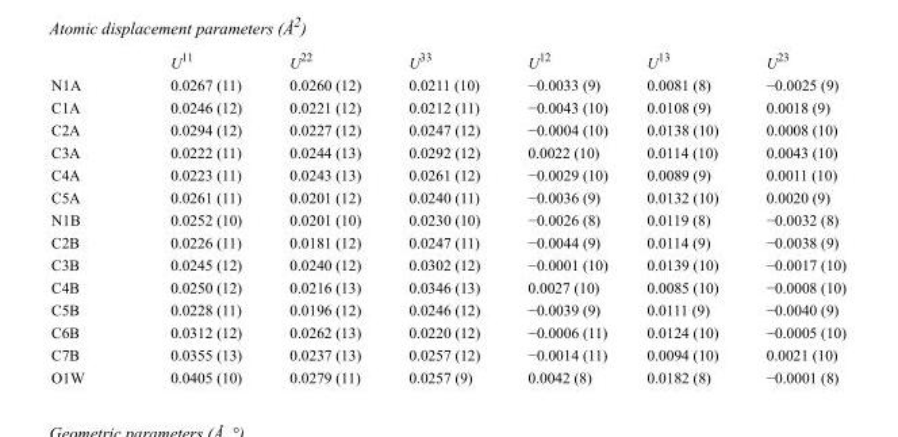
<table><thead><tr><td></td><td>U<sup>11</sup></td><td>U<sup>22</sup></td><td>U<sup>33</sup></td><td>U<sup>12</sup></td><td>U<sup>13</sup></td><td>U<sup>23</sup></td></tr></thead><tbody><tr><td>N1A</td><td>0.0267 (11)</td><td>0.0260 (12)</td><td>0.0211 (10)</td><td>−0.0033 (9)</td><td>0.0081 (8)</td><td>−0.0025 (9)</td></tr><tr><td>C1A</td><td>0.0246 (12)</td><td>0.0221 (12)</td><td>0.0212 (11)</td><td>−0.0043 (10)</td><td>0.0108 (9)</td><td>0.0018 (9)</td></tr><tr><td>C2A</td><td>0.0294 (12)</td><td>0.0227 (12)</td><td>0.0247 (12)</td><td>−0.0004 (10)</td><td>0.0138 (10)</td><td>0.0008 (10)</td></tr><tr><td>C3A</td><td>0.0222 (11)</td><td>0.0244 (13)</td><td>0.0292 (12)</td><td>0.0022 (10)</td><td>0.0114 (10)</td><td>0.0043 (10)</td></tr><tr><td>C4A</td><td>0.0223 (11)</td><td>0.0243 (13)</td><td>0.0261 (12)</td><td>−0.0029 (10)</td><td>0.0089 (9)</td><td>0.0011 (10)</td></tr><tr><td>C5A</td><td>0.0261 (11)</td><td>0.0201 (12)</td><td>0.0240 (11)</td><td>−0.0036 (9)</td><td>0.0132 (10)</td><td>0.0020 (9)</td></tr><tr><td>N1B</td><td>0.0252 (10)</td><td>0.0201 (10)</td><td>0.0230 (10)</td><td>−0.0026 (8)</td><td>0.0119 (8)</td><td>−0.0032 (8)</td></tr><tr><td>C2B</td><td>0.0226 (11)</td><td>0.0181 (12)</td><td>0.0247 (11)</td><td>−0.0044 (9)</td><td>0.0114 (9)</td><td>−0.0038 (9)</td></tr><tr><td>C3B</td><td>0.0245 (12)</td><td>0.0240 (12)</td><td>0.0302 (12)</td><td>−0.0001 (10)</td><td>0.0139 (10)</td><td>−0.0017 (10)</td></tr><tr><td>C4B</td><td>0.0250 (12)</td><td>0.0216 (13)</td><td>0.0346 (13)</td><td>0.0027 (10)</td><td>0.0085 (10)</td><td>−0.0008 (10)</td></tr><tr><td>C5B</td><td>0.0228 (11)</td><td>0.0196 (12)</td><td>0.0246 (12)</td><td>−0.0039 (9)</td><td>0.0111 (9)</td><td>−0.0040 (9)</td></tr><tr><td>C6B</td><td>0.0312 (12)</td><td>0.0262 (13)</td><td>0.0220 (12)</td><td>−0.0006 (11)</td><td>0.0124 (10)</td><td>−0.0005 (10)</td></tr><tr><td>C7B</td><td>0.0355 (13)</td><td>0.0237 (13)</td><td>0.0257 (12)</td><td>−0.0014 (11)</td><td>0.0094 (10)</td><td>0.0021 (10)</td></tr><tr><td>O1W</td><td>0.0405 (10)</td><td>0.0279 (11)</td><td>0.0257 (9)</td><td>0.0042 (8)</td><td>0.0182 (8)</td><td>−0.0001 (8)</td></tr></tbody></table>